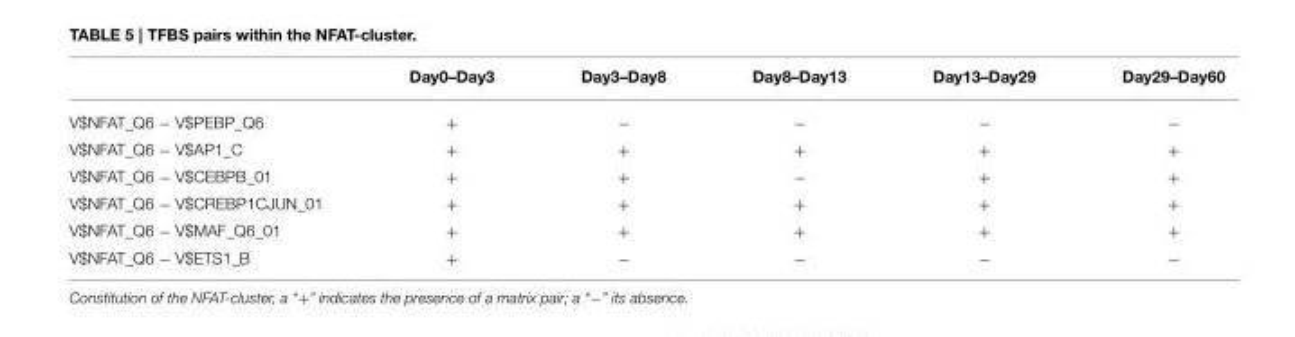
<table><thead><tr><td></td><td>Day0–Day3</td><td>Day3–Day8</td><td>Day8–Day13</td><td>Day13–Day29</td><td>Day29–Day60</td></tr></thead><tbody><tr><td>V$NFAT_Q6 − V$PEBP_Q6</td><td>+</td><td>−</td><td>−</td><td>−</td><td>−</td></tr><tr><td>V$NFAT_Q6 − V$AP1_C</td><td>+</td><td>+</td><td>+</td><td>+</td><td>+</td></tr><tr><td>V$NFAT_Q6 − V$CEBPB_01</td><td>+</td><td>+</td><td>−</td><td>+</td><td>+</td></tr><tr><td>V$NFAT_Q6 − V$CREBP1CJUN_01</td><td>+</td><td>+</td><td>+</td><td>+</td><td>+</td></tr><tr><td>V$NFAT_Q6 − V$MAF_Q6_01</td><td>+</td><td>+</td><td>+</td><td>+</td><td>+</td></tr><tr><td>V$NFAT_Q6 − V$ETS1_B</td><td>+</td><td>−</td><td>−</td><td>−</td><td>−</td></tr></tbody></table>